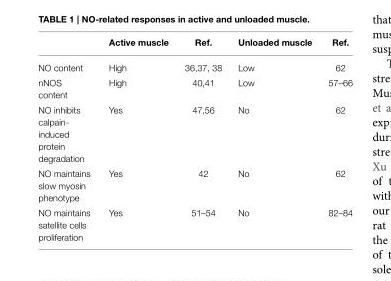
<table><thead><tr><td></td><td>Active muscle</td><td>Ref.</td><td>Unloaded muscle</td><td>Ref.</td></tr></thead><tbody><tr><td>NO content</td><td>High</td><td>36,37, 38</td><td>Low</td><td>62</td></tr><tr><td>nNOS content</td><td>High</td><td>40,41</td><td>Low</td><td>57–66</td></tr><tr><td>NO inhibits calpain- induced protein degradation</td><td>Yes</td><td>47,56</td><td>No</td><td>62</td></tr><tr><td>NO maintains slow myosin phenotype</td><td>Yes</td><td>42</td><td>No</td><td>62</td></tr><tr><td>NO maintains satellite cells proliferation</td><td>Yes</td><td>51–54</td><td>No</td><td>82–84</td></tr></tbody></table>